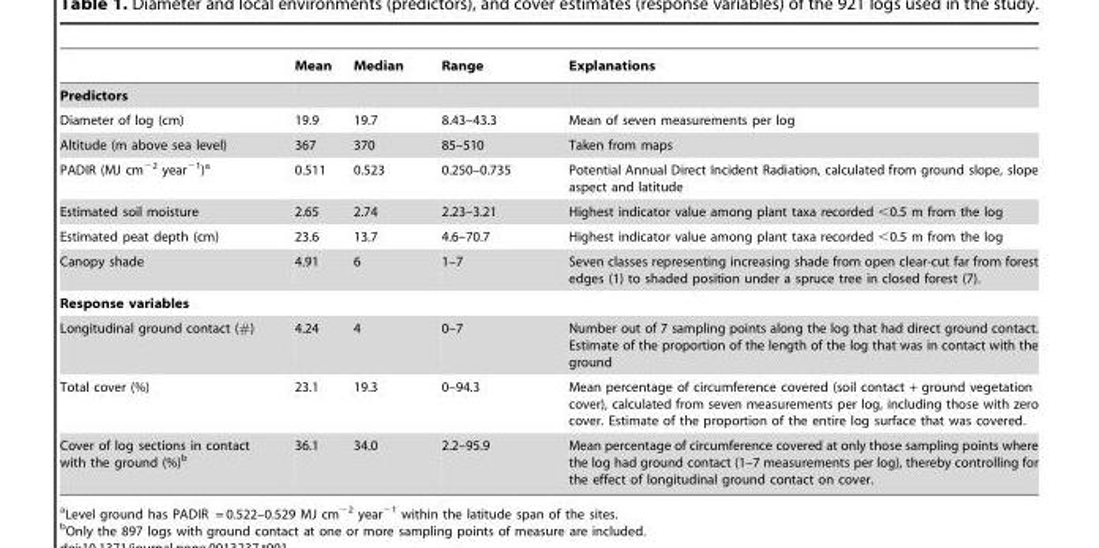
<table><thead><tr><td></td><td>Mean</td><td>Median</td><td>Range</td><td>Explanations</td></tr></thead><tbody><tr><td colspan="5">Predictors</td></tr><tr><td>Diameter of log (cm)</td><td>19.9</td><td>19.7</td><td>8.43–43.3</td><td>Mean of seven measurements per log</td></tr><tr><td>Altitude (m above sea level)</td><td>367</td><td>370</td><td>85–510</td><td>Taken from maps</td></tr><tr><td>PADIR (MJ cm<sup>−2</sup> year<sup>−1</sup>)<sup>a</sup></td><td>0.511</td><td>0.523</td><td>0.250–0.735</td><td>Potential Annual Direct Incident Radiation, calculated from ground slope, slope aspect and latitude</td></tr><tr><td>Estimated soil moisture</td><td>2.65</td><td>2.74</td><td>2.23–3.21</td><td>Highest indicator value among plant taxa recorded &lt;0.5 m from the log</td></tr><tr><td>Estimated peat depth (cm)</td><td>23.6</td><td>13.7</td><td>4.6–70.7</td><td>Highest indicator value among plant taxa recorded &lt;0.5 m from the log</td></tr><tr><td>Canopy shade</td><td>4.91</td><td>6</td><td>1–7</td><td>Seven classes representing increasing shade from open clear-cut far from forest edges (1) to shaded position under a spruce tree in closed forest (7).</td></tr><tr><td colspan="5">Response variables</td></tr><tr><td>Longitudinal ground contact (#)</td><td>4.24</td><td>4</td><td>0–7</td><td>Number out of 7 sampling points along the log that had direct ground contact. Estimate of the proportion of the length of the log that was in contact with the ground</td></tr><tr><td>Total cover (%)</td><td>23.1</td><td>19.3</td><td>0–94.3</td><td>Mean percentage of circumference covered (soil contact + ground vegetation cover), calculated from seven measurements per log, including those with zero cover. Estimate of the proportion of the entire log surface that was covered.</td></tr><tr><td>Cover of log sections in contact with the ground (%)<sup>b</sup></td><td>36.1</td><td>34.0</td><td>2.2–95.9</td><td>Mean percentage of circumference covered at only those sampling points where the log had ground contact (1–7 measurements per log), thereby controlling for the effect of longitudinal ground contact on cover.</td></tr></tbody></table>